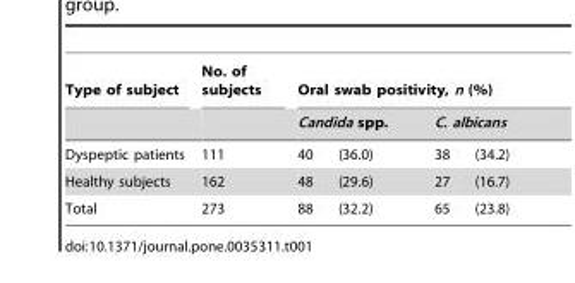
<table><thead><tr><td rowspan="3">Type of subject Dyspeptic patients</td><td rowspan="3">No. of subjects 111</td><td colspan="4">Oral swab positivity, n (%)</td></tr><tr><td colspan="2">Candida spp.</td><td colspan="2">C. albicans</td></tr><tr><td>40</td><td>(36.0)</td><td>38</td><td>(34.2)</td></tr></thead><tbody><tr><td>Healthy subjects</td><td>162</td><td>48</td><td>(29.6)</td><td>27</td><td>(16.7)</td></tr><tr><td>Total</td><td>273</td><td>88</td><td>(32.2)</td><td>65</td><td>(23.8)</td></tr></tbody></table>